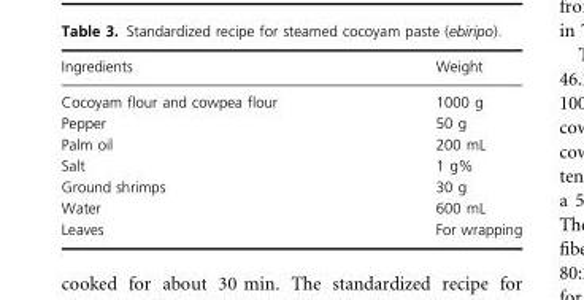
<table><thead><tr><td>Ingredients</td><td>Weight</td></tr></thead><tbody><tr><td>Cocoyam flour and cowpea flour</td><td>1000 g</td></tr><tr><td>Pepper</td><td>50 g</td></tr><tr><td>Palm oil</td><td>200 mL</td></tr><tr><td>Salt</td><td>1 g%</td></tr><tr><td>Ground shrimps</td><td>30 g</td></tr><tr><td>Water</td><td>600 mL</td></tr><tr><td>Leaves</td><td>For wrapping</td></tr></tbody></table>